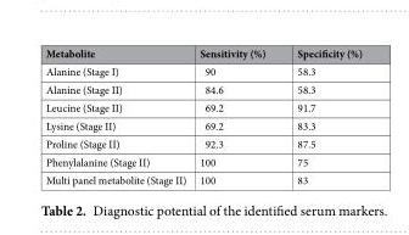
<table><thead><tr><td>Metabolite</td><td>Sensitivity (%)</td><td>Specificity (%)</td></tr></thead><tbody><tr><td>Alanine (Stage I)</td><td>90</td><td>58.3</td></tr><tr><td>Alanine (Stage II)</td><td>84.6</td><td>58.3</td></tr><tr><td>Leucine (Stage II)</td><td>69.2</td><td>91.7</td></tr><tr><td>Lysine (Stage II)</td><td>69.2</td><td>83.3</td></tr><tr><td>Proline (Stage II)</td><td>92.3</td><td>87.5</td></tr><tr><td>Phenylalanine (Stage II)</td><td>100</td><td>75</td></tr><tr><td>Multi panel metabolite (Stage II)</td><td>100</td><td>83</td></tr></tbody></table>